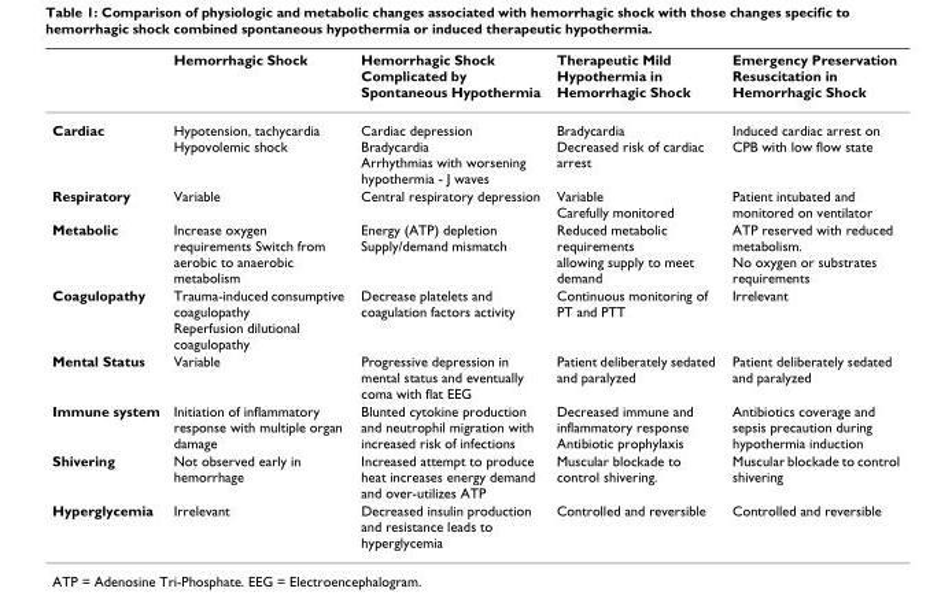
<table><thead><tr><td></td><td>Hemorrhagic Shock</td><td>Hemorrhagic Shock Complicated by Spontaneous Hypothermia</td><td>Therapeutic Mild Hypothermia in Hemorrhagic Shock</td><td>Emergency Preservation Resuscitation in Hemorrhagic Shock</td></tr></thead><tbody><tr><td>Cardiac</td><td>Hypotension, tachycardia Hypovolemic shock</td><td>Cardiac depression Bradycardia Arrhythmias with worsening hypothermia - J waves</td><td>Bradycardia Decreased risk of cardiac arrest</td><td>Induced cardiac arrest on CPB with low flow state</td></tr><tr><td>Respiratory</td><td>Variable</td><td>Central respiratory depression</td><td>Variable Carefully monitored</td><td>Patient intubated and monitored on ventilator</td></tr><tr><td>Metabolic</td><td>Increase oxygen requirements Switch from aerobic to anaerobic metabolism</td><td>Energy (ATP) depletion Supply/demand mismatch</td><td>Reduced metabolic requirements allowing supply to meet demand</td><td>ATP reserved with reduced metabolism. No oxygen or substrates requirements</td></tr><tr><td>Coagulopathy</td><td>Trauma-induced consumptive coagulopathy Reperfusion dilutional coagulopathy</td><td>Decrease platelets and coagulation factors activity</td><td>Continuous monitoring of PT and PTT</td><td>Irrelevant</td></tr><tr><td>Mental Status</td><td>Variable</td><td>Progressive depression in mental status and eventually coma with flat EEG</td><td>Patient deliberately sedated and paralyzed</td><td>Patient deliberately sedated and paralyzed</td></tr><tr><td>Immune system</td><td>Initiation of inflammatory response with multiple organ damage</td><td>Blunted cytokine production and neutrophil migration with increased risk of infections</td><td>Decreased immune and inflammatory response Antibiotic prophylaxis</td><td>Antibiotics coverage and sepsis precaution during hypothermia induction</td></tr><tr><td>Shivering</td><td>Not observed early in hemorrhage</td><td>Increased attempt to produce heat increases energy demand and over-utilizes ATP</td><td>Muscular blockade to control shivering.</td><td>Muscular blockade to control shivering</td></tr><tr><td>Hyperglycemia</td><td>Irrelevant</td><td>Decreased insulin production and resistance leads to hyperglycemia</td><td>Controlled and reversible</td><td>Controlled and reversible</td></tr></tbody></table>